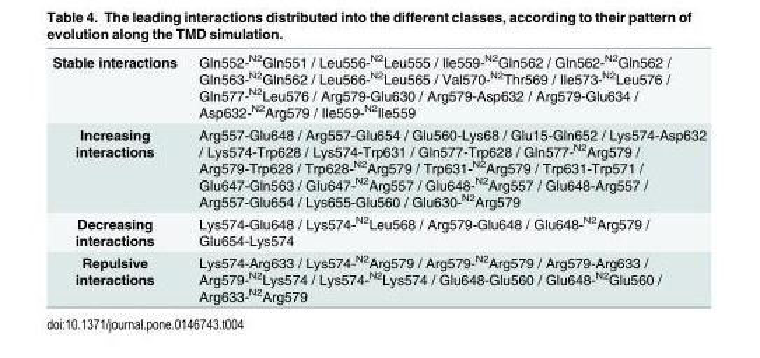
<table><tbody><tr><td>Stable interactions</td><td>Gln552-<sup>N2</sup>Gln551 / Leu556-<sup>N2</sup>Leu555 / Ile559-<sup>N2</sup>Gln562 / Gln562-<sup>N2</sup>Gln562 / Gln563-<sup>N2</sup>Gln562 / Leu566-<sup>N2</sup>Leu565 / Val570-<sup>N2</sup>Thr569 / Ile573-<sup>N2</sup>Leu576 / Gln577-<sup>N2</sup>Leu576 / Arg579-Glu630 / Arg579-Asp632 / Arg579-Glu634 / Asp632-<sup>N2</sup>Arg579 / Ile559-<sup>N2</sup>Ile559</td></tr><tr><td>Increasing interactions</td><td>Arg557-Glu648 / Arg557-Glu654 / Glu560-Lys68 / Glu15-Gln652 / Lys574-Asp632 / Lys574-Trp628 / Lys574-Trp631 / Gln577-Trp628 / Gln577-<sup>N2</sup>Arg579 / Arg579-Trp628 / Trp628-<sup>N2</sup>Arg579 / Trp631-<sup>N2</sup>Arg579 / Trp631-Trp571 / Glu647-Gln563 / Glu647-<sup>N2</sup>Arg557 / Glu648-<sup>N2</sup>Arg557 / Glu648-Arg557 / Arg557-Glu654 / Lys655-Glu560 / Glu630-<sup>N2</sup>Arg579</td></tr><tr><td>Decreasing interactions</td><td>Lys574-Glu648 / Lys574-<sup>N2</sup>Leu568 / Arg579-Glu648 / Glu648-<sup>N2</sup>Arg579 / Glu654-Lys574</td></tr><tr><td>Repulsive interactions</td><td>Lys574-Arg633 / Lys574-<sup>N2</sup>Arg579 / Arg579-<sup>N2</sup>Arg579 / Arg579-Arg633 / Arg579-<sup>N2</sup>Lys574 / Lys574-<sup>N2</sup>Lys574 / Glu648-Glu560 / Glu648-<sup>N2</sup>Glu560 / Arg633-<sup>N2</sup>Arg579</td></tr></tbody></table>